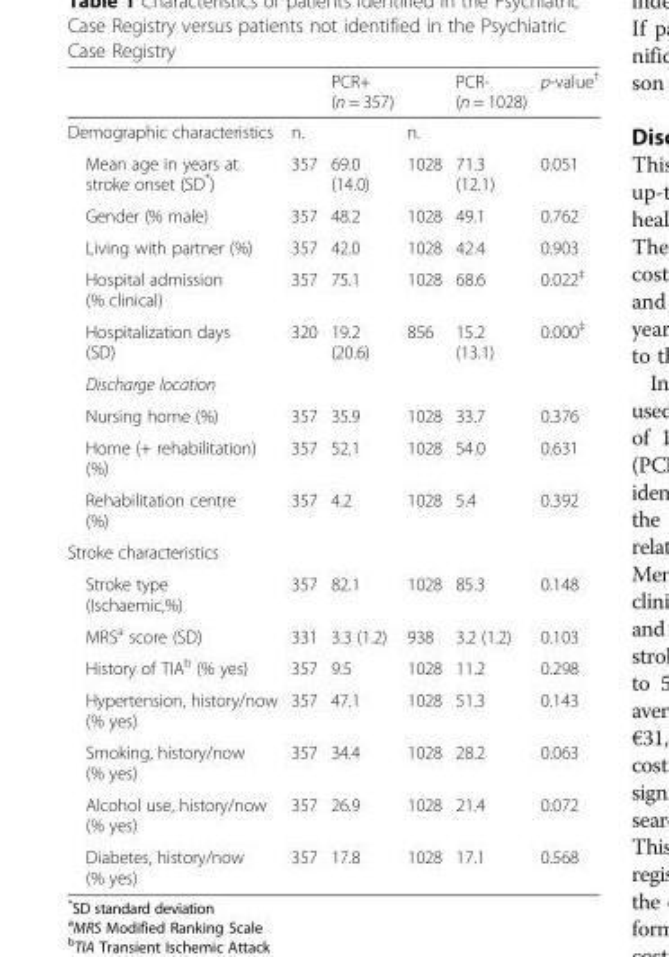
<table><thead><tr><td></td><td></td><td>PCR+ (n = 357)</td><td></td><td>PCR- (n = 1028)</td><td>p-value<sup>†</sup></td></tr></thead><tbody><tr><td>Demographic characteristics</td><td>n.</td><td></td><td>n.</td><td></td><td></td></tr><tr><td>Mean age in years at stroke onset (SD*)</td><td>357</td><td>69.0 (14.0)</td><td>1028</td><td>71.3 (12.1)</td><td>0.051</td></tr><tr><td>Gender (% male)</td><td>357</td><td>48.2</td><td>1028</td><td>49.1</td><td>0.762</td></tr><tr><td>Living with partner (%)</td><td>357</td><td>42.0</td><td>1028</td><td>42.4</td><td>0.903</td></tr><tr><td>Hospital admission (% clinical)</td><td>357</td><td>75.1</td><td>1028</td><td>68.6</td><td>0.022<sup>‡</sup></td></tr><tr><td>Hospitalization days (SD)</td><td>320</td><td>19.2 (20.6)</td><td>856</td><td>15.2 (13.1)</td><td>0.000<sup>‡</sup></td></tr><tr><td colspan="6">Discharge location</td></tr><tr><td>Nursing home (%)</td><td>357</td><td>35.9</td><td>1028</td><td>33.7</td><td>0.376</td></tr><tr><td>Home (+ rehabilitation) (%)</td><td>357</td><td>52.1</td><td>1028</td><td>54.0</td><td>0.631</td></tr><tr><td>Rehabilitation centre (%)</td><td>357</td><td>4.2</td><td>1028</td><td>5.4</td><td>0.392</td></tr><tr><td colspan="6">Stroke characteristics</td></tr><tr><td>Stroke type (Ischaemic,%)</td><td>357</td><td>82.1</td><td>1028</td><td>85.3</td><td>0.148</td></tr><tr><td>MRS<sup>a</sup> score (SD)</td><td>331</td><td>3.3 (1.2)</td><td>938</td><td>3.2 (1.2)</td><td>0.103</td></tr><tr><td>History of TIA<sup>b</sup> (% yes)</td><td>357</td><td>9.5</td><td>1028</td><td>11.2</td><td>0.298</td></tr><tr><td>Hypertension, history/now (% yes)</td><td>357</td><td>47.1</td><td>1028</td><td>51.3</td><td>0.143</td></tr><tr><td>Smoking, history/now (% yes)</td><td>357</td><td>34.4</td><td>1028</td><td>28.2</td><td>0.063</td></tr><tr><td>Alcohol use, history/now (% yes)</td><td>357</td><td>26.9</td><td>1028</td><td>21.4</td><td>0.072</td></tr><tr><td>Diabetes, history/now (% yes)</td><td>357</td><td>17.8</td><td>1028</td><td>17.1</td><td>0.568</td></tr></tbody></table>